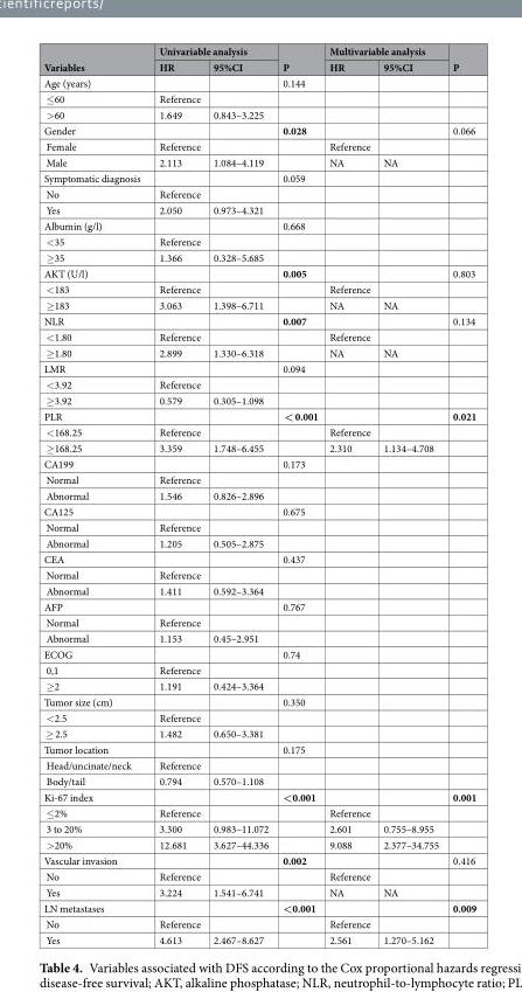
<table><thead><tr><td rowspan="2">Variables</td><td colspan="2">Univariable analysis</td><td rowspan="2">P</td><td colspan="2">Multivariable analysis</td><td rowspan="2">P</td></tr><tr><td>HR</td><td>95%CI</td><td>HR</td><td>95%CI</td></tr></thead><tbody><tr><td>Age (years)</td><td></td><td></td><td>0.144</td><td></td><td></td><td></td></tr><tr><td>≤60</td><td>Reference</td><td></td><td></td><td></td><td></td><td></td></tr><tr><td>&gt;60</td><td>1.649</td><td>0.843–3.225</td><td></td><td></td><td></td><td></td></tr><tr><td>Gender</td><td></td><td></td><td>0.028</td><td></td><td></td><td>0.066</td></tr><tr><td>Female</td><td>Reference</td><td></td><td></td><td>Reference</td><td></td><td></td></tr><tr><td>Male</td><td>2.113</td><td>1.084–4.119</td><td></td><td>NA</td><td>NA</td><td></td></tr><tr><td>Symptomatic diagnosis</td><td></td><td></td><td>0.059</td><td></td><td></td><td></td></tr><tr><td>No</td><td>Reference</td><td></td><td></td><td></td><td></td><td></td></tr><tr><td>Yes</td><td>2.050</td><td>0.973–4.321</td><td></td><td></td><td></td><td></td></tr><tr><td>Albumin (g/l)</td><td></td><td></td><td>0.668</td><td></td><td></td><td></td></tr><tr><td>&lt;35</td><td>Reference</td><td></td><td></td><td></td><td></td><td></td></tr><tr><td>≥35</td><td>1.366</td><td>0.328–5.685</td><td></td><td></td><td></td><td></td></tr><tr><td>AKT (U/l)</td><td></td><td></td><td>0.005</td><td></td><td></td><td>0.803</td></tr><tr><td>&lt;183</td><td>Reference</td><td></td><td></td><td>Reference</td><td></td><td></td></tr><tr><td>≥183</td><td>3.063</td><td>1.398–6.711</td><td></td><td>NA</td><td>NA</td><td></td></tr><tr><td>NLR</td><td></td><td></td><td>0.007</td><td></td><td></td><td>0.134</td></tr><tr><td>&lt;1.80</td><td>Reference</td><td></td><td></td><td>Reference</td><td></td><td></td></tr><tr><td>≥1.80</td><td>2.899</td><td>1.330–6.318</td><td></td><td>NA</td><td>NA</td><td></td></tr><tr><td>LMR</td><td></td><td></td><td>0.094</td><td></td><td></td><td></td></tr><tr><td>&lt;3.92</td><td>Reference</td><td></td><td></td><td></td><td></td><td></td></tr><tr><td>≥3.92</td><td>0.579</td><td>0.305–1.098</td><td></td><td></td><td></td><td></td></tr><tr><td>PLR</td><td></td><td></td><td>&lt; 0.001</td><td></td><td></td><td>0.021</td></tr><tr><td>&lt;168.25</td><td>Reference</td><td></td><td></td><td>Reference</td><td></td><td></td></tr><tr><td>≥168.25</td><td>3.359</td><td>1.748–6.455</td><td></td><td>2.310</td><td>1.134–4.708</td><td></td></tr><tr><td>CA199</td><td></td><td></td><td>0.173</td><td></td><td></td><td></td></tr><tr><td>Normal</td><td>Reference</td><td></td><td></td><td></td><td></td><td></td></tr><tr><td>Abnormal</td><td>1.546</td><td>0.826–2.896</td><td></td><td></td><td></td><td></td></tr><tr><td>CA125</td><td></td><td></td><td>0.675</td><td></td><td></td><td></td></tr><tr><td>Normal</td><td>Reference</td><td></td><td></td><td></td><td></td><td></td></tr><tr><td>Abnormal</td><td>1.205</td><td>0.505–2.875</td><td></td><td></td><td></td><td></td></tr><tr><td>CEA</td><td></td><td></td><td>0.437</td><td></td><td></td><td></td></tr><tr><td>Normal</td><td>Reference</td><td></td><td></td><td></td><td></td><td></td></tr><tr><td>Abnormal</td><td>1.411</td><td>0.592–3.364</td><td></td><td></td><td></td><td></td></tr><tr><td>AFP</td><td></td><td></td><td>0.767</td><td></td><td></td><td></td></tr><tr><td>Normal</td><td>Reference</td><td></td><td></td><td></td><td></td><td></td></tr><tr><td>Abnormal</td><td>1.153</td><td>0.45–2.951</td><td></td><td></td><td></td><td></td></tr><tr><td>ECOG</td><td></td><td></td><td>0.74</td><td></td><td></td><td></td></tr><tr><td>0,1</td><td>Reference</td><td></td><td></td><td></td><td></td><td></td></tr><tr><td>≥2</td><td>1.191</td><td>0.424–3.364</td><td></td><td></td><td></td><td></td></tr><tr><td>Tumor size (cm)</td><td></td><td></td><td>0.350</td><td></td><td></td><td></td></tr><tr><td>&lt;2.5</td><td>Reference</td><td></td><td></td><td></td><td></td><td></td></tr><tr><td>≥ 2.5</td><td>1.482</td><td>0.650–3.381</td><td></td><td></td><td></td><td></td></tr><tr><td>Tumor location</td><td></td><td></td><td>0.175</td><td></td><td></td><td></td></tr><tr><td>Head/uncinate/neck</td><td>Reference</td><td></td><td></td><td></td><td></td><td></td></tr><tr><td>Body/tail</td><td>0.794</td><td>0.570–1.108</td><td></td><td></td><td></td><td></td></tr><tr><td>Ki-67 index</td><td></td><td></td><td>&lt;0.001</td><td></td><td></td><td>0.001</td></tr><tr><td>≤2%</td><td>Reference</td><td></td><td></td><td>Reference</td><td></td><td></td></tr><tr><td>3 to 20%</td><td>3.300</td><td>0.983–11.072</td><td></td><td>2.601</td><td>0.755–8.955</td><td></td></tr><tr><td>&gt;20%</td><td>12.681</td><td>3.627–44.336</td><td></td><td>9.088</td><td>2.377–34.755</td><td></td></tr><tr><td>Vascular invasion</td><td></td><td></td><td>0.002</td><td></td><td></td><td>0.416</td></tr><tr><td>No</td><td>Reference</td><td></td><td></td><td>Reference</td><td></td><td></td></tr><tr><td>Yes</td><td>3.224</td><td>1.541–6.741</td><td></td><td>NA</td><td>NA</td><td></td></tr><tr><td>LN metastases</td><td></td><td></td><td>&lt;0.001</td><td></td><td></td><td>0.009</td></tr><tr><td>No</td><td>Reference</td><td></td><td></td><td>Reference</td><td></td><td></td></tr><tr><td>Yes</td><td>4.613</td><td>2.467–8.627</td><td></td><td>2.561</td><td>1.270–5.162</td><td></td></tr></tbody></table>